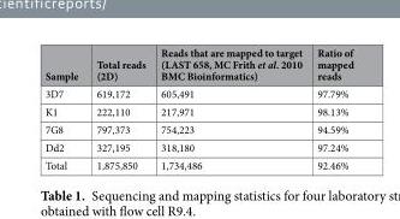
<table><thead><tr><td>Sample</td><td>Total reads (2D)</td><td>Reads that are mapped to target (LAST 658, MC Frith et al. 2010 BMC Bioinformatics)</td><td>Ratio of mapped reads</td></tr></thead><tbody><tr><td>3D7</td><td>619,172</td><td>605,491</td><td>97.79%</td></tr><tr><td>K1</td><td>222,110</td><td>217,971</td><td>98.13%</td></tr><tr><td>7G8</td><td>797,373</td><td>754,223</td><td>94.59%</td></tr><tr><td>Dd2</td><td>327,195</td><td>318,180</td><td>97.24%</td></tr><tr><td>Total</td><td>1,875,850</td><td>1,734,486</td><td>92.46%</td></tr></tbody></table>